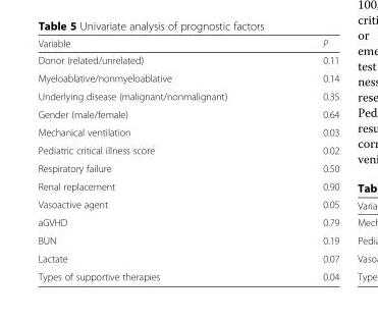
<table><thead><tr><td>Variable</td><td>P</td></tr></thead><tbody><tr><td>Donor (related/unrelated)</td><td>0.11</td></tr><tr><td>Myeloablative/nonmyeloablative</td><td>0.14</td></tr><tr><td>Underlying disease (malignant/nonmalignant)</td><td>0.35</td></tr><tr><td>Gender (male/female)</td><td>0.64</td></tr><tr><td>Mechanical ventilation</td><td>0.03</td></tr><tr><td>Pediatric critical illness score</td><td>0.02</td></tr><tr><td>Respiratory failure</td><td>0.50</td></tr><tr><td>Renal replacement</td><td>0.90</td></tr><tr><td>Vasoactive agent</td><td>0.05</td></tr><tr><td>aGVHD</td><td>0.79</td></tr><tr><td>BUN</td><td>0.19</td></tr><tr><td>Lactate</td><td>0.07</td></tr><tr><td>Types of supportive therapies</td><td>0.04</td></tr></tbody></table>